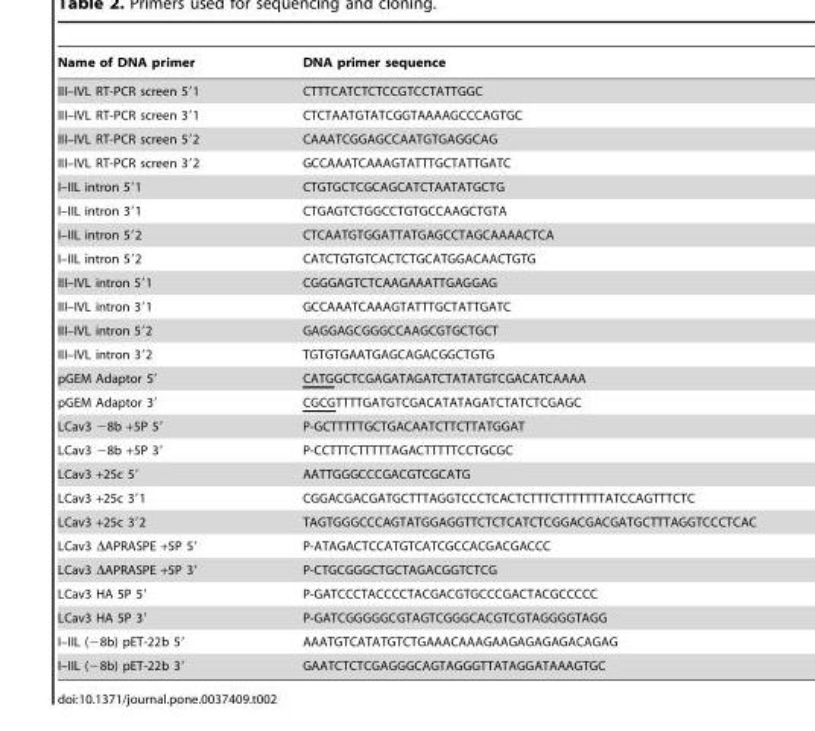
<table><thead><tr><td>Name of DNA primer</td><td>DNA primer sequence</td></tr></thead><tbody><tr><td>III–IVL RT-PCR screen 5′1</td><td>CTTTCATCTCTCCGTCCTATTGGC</td></tr><tr><td>III–IVL RT-PCR screen 3′1</td><td>CTCTAATGTATCGGTAAAAGCCCAGTGC</td></tr><tr><td>III–IVL RT-PCR screen 5′2</td><td>CAAATCGGAGCCAATGTGAGGCAG</td></tr><tr><td>III–IVL RT-PCR screen 3′2</td><td>GCCAAATCAAAGTATTTGCTATTGATC</td></tr><tr><td>I–IIL intron 5′1</td><td>CTGTGCTCGCAGCATCTAATATGCTG</td></tr><tr><td>I–IIL intron 3′1</td><td>CTGAGTCTGGCCTGTGCCAAGCTGTA</td></tr><tr><td>I–IIL intron 5′2</td><td>CTCAATGTGGATTATGAGCCTAGCAAAACTCA</td></tr><tr><td>I–IIL intron 5′2</td><td>CATCTGTGTCACTCTGCATGGACAACTGTG</td></tr><tr><td>III–IVL intron 5′1</td><td>CGGGAGTCTCAAGAAATTGAGGAG</td></tr><tr><td>III–IVL intron 3′1</td><td>GCCAAATCAAAGTATTTGCTATTGATC</td></tr><tr><td>III–IVL intron 5′2</td><td>GAGGAGCGGGCCAAGCGTGCTGCT</td></tr><tr><td>III–IVL intron 3′2</td><td>TGTGTGAATGAGCAGACGGCTGTG</td></tr><tr><td>pGEM Adaptor 5′</td><td>CATGGCTCGAGATAGATCTATATGTCGACATCAAAA</td></tr><tr><td>pGEM Adaptor 3′</td><td>CGCGTTTTGATGTCGACATATAGATCTATCTCGAGC</td></tr><tr><td>LCav3 −8b +5P 5′</td><td>P-GCTTTTTGCTGACAATCTTCTTATGGAT</td></tr><tr><td>LCav3 −8b +5P 3′</td><td>P-CCTTTCTTTTTAGACTTTTTCCTGCGC</td></tr><tr><td>LCav3 +25c 5′</td><td>AATTGGGCCCGACGTCGCATG</td></tr><tr><td>LCav3 +25c 3′1</td><td>CGGACGACGATGCTTTAGGTCCCTCACTCTTTCTTTTTTTATCCAGTTTCTC</td></tr><tr><td>LCav3 +25c 3′2</td><td>TAGTGGGCCCAGTATGGAGGTTCTCTCATCTCGGACGACGATGCTTTAGGTCCCTCAC</td></tr><tr><td>LCav3 ΔAPRASPE +5P 5′</td><td>P-ATAGACTCCATGTCATCGCCACGACGACCC</td></tr><tr><td>LCav3 ΔAPRASPE +5P 3′</td><td>P-CTGCGGGCTGCTAGACGGTCTCG</td></tr><tr><td>LCav3 HA 5P 5′</td><td>P-GATCCCTACCCCTACGACGTGCCCGACTACGCCCCC</td></tr><tr><td>LCav3 HA 5P 3′</td><td>P-GATCGGGGGCGTAGTCGGGCACGTCGTAGGGGTAGG</td></tr><tr><td>I–IIL (−8b) pET-22b 5′</td><td>AAATGTCATATGTCTGAAACAAAGAAGAGAGAGACAGAG</td></tr><tr><td>I–IIL (−8b) pET-22b 3′</td><td>GAATCTCTCGAGGGCAGTAGGGTTATAGGATAAAGTGC</td></tr></tbody></table>